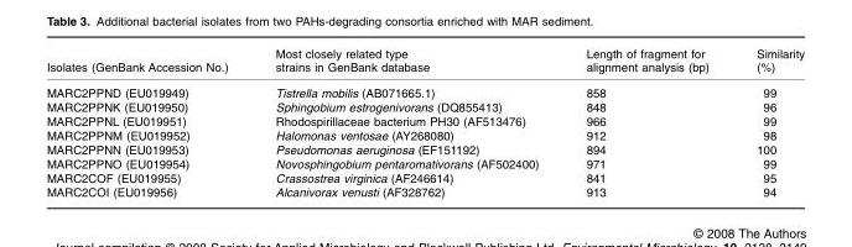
<table><thead><tr><td>Isolates (GenBank Accession No.)</td><td>Most closely related type strains in GenBank database</td><td>Length of fragment for alignment analysis (bp)</td><td>Similarity (%)</td></tr></thead><tbody><tr><td>MARC2PPND (EU019949)</td><td>Tistrella mobilis (AB071665.1)</td><td>858</td><td>99</td></tr><tr><td>MARC2PPNK (EU019950)</td><td>Sphingobium estrogenivorans (DQ855413)</td><td>848</td><td>96</td></tr><tr><td>MARC2PPNL (EU019951)</td><td>Rhodospirillaceae bacterium PH30 (AF513476)</td><td>966</td><td>99</td></tr><tr><td>MARC2PPNM (EU019952)</td><td>Halomonas ventosae (AY268080)</td><td>912</td><td>98</td></tr><tr><td>MARC2PPNN (EU019953)</td><td>Pseudomonas aeruginosa (EF151192)</td><td>894</td><td>100</td></tr><tr><td>MARC2PPNO (EU019954)</td><td>Novosphingobium pentaromativorans (AF502400)</td><td>971</td><td>99</td></tr><tr><td>MARC2COF (EU019955)</td><td>Crassostrea virginica (AF246614)</td><td>841</td><td>95</td></tr><tr><td>MARC2COI (EU019956)</td><td>Alcanivorax venusti (AF328762)</td><td>913</td><td>94</td></tr></tbody></table>